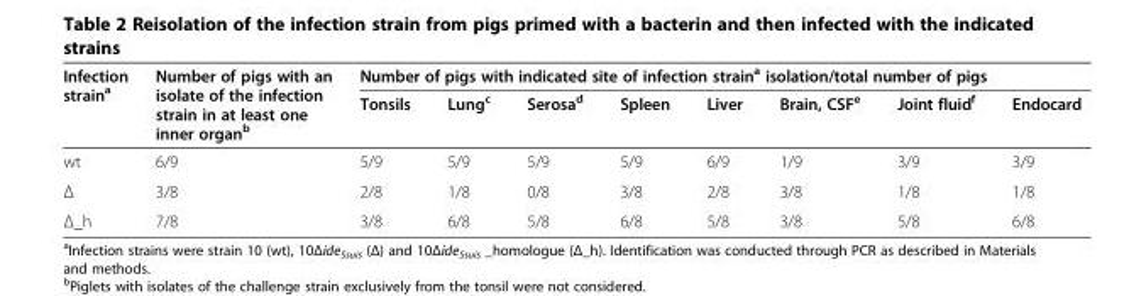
<table><thead><tr><td rowspan="2">Infection strain<sup>a</sup></td><td rowspan="2">Number of pigs with an isolate of the infection strain in at least one inner organ<sup>b</sup></td><td colspan="8">Number of pigs with indicated site of infection strain<sup>a</sup> isolation/total number of pigs</td></tr><tr><td>Tonsils</td><td>Lung<sup>c</sup></td><td>Serosa<sup>d</sup></td><td>Spleen</td><td>Liver</td><td>Brain, CSF<sup>e</sup></td><td>Joint fluid<sup>f</sup></td><td>Endocard</td></tr></thead><tbody><tr><td>wt</td><td>6/9</td><td>5/9</td><td>5/9</td><td>5/9</td><td>5/9</td><td>6/9</td><td>1/9</td><td>3/9</td><td>3/9</td></tr><tr><td>Δ</td><td>3/8</td><td>2/8</td><td>1/8</td><td>0/8</td><td>3/8</td><td>2/8</td><td>3/8</td><td>1/8</td><td>1/8</td></tr><tr><td>Δ_h</td><td>7/8</td><td>3/8</td><td>6/8</td><td>5/8</td><td>6/8</td><td>5/8</td><td>3/8</td><td>5/8</td><td>6/8</td></tr></tbody></table>